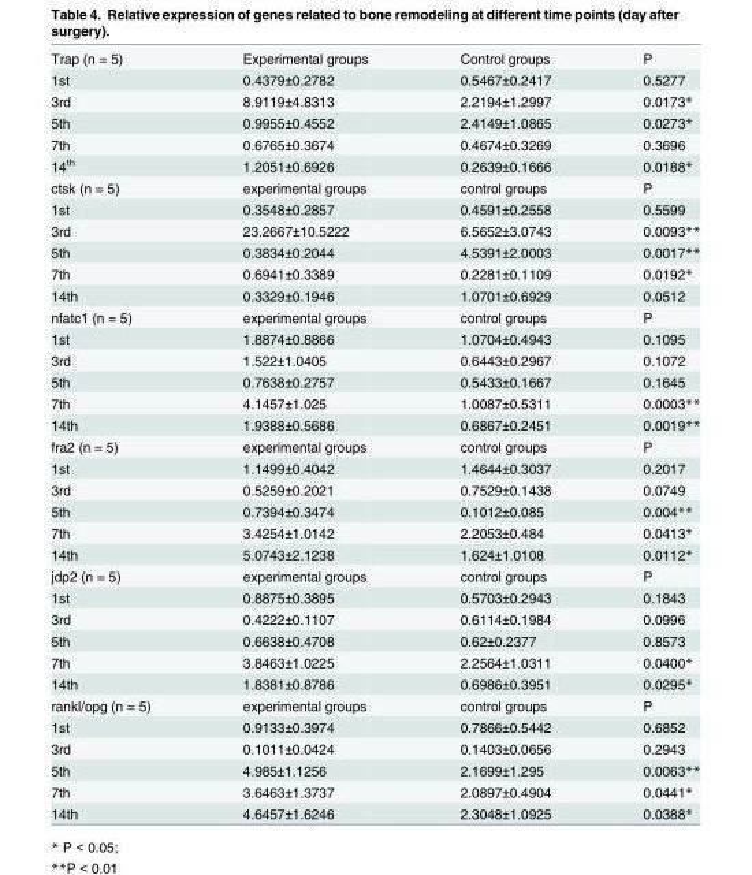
<table><tbody><tr><td>Trap (n = 5)</td><td>Experimental groups</td><td>Control groups</td><td>P</td></tr><tr><td>1st</td><td>0.4379±0.2782</td><td>0.5467±0.2417</td><td>0.5277</td></tr><tr><td>3rd</td><td>8.9119±4.8313</td><td>2.2194±1.2997</td><td>0.0173*</td></tr><tr><td>5th</td><td>0.9955±0.4552</td><td>2.4149±1.0865</td><td>0.0273*</td></tr><tr><td>7th</td><td>0.6765±0.3674</td><td>0.4674±0.3269</td><td>0.3696</td></tr><tr><td>14<sup>th</sup></td><td>1.2051±0.6926</td><td>0.2639±0.1666</td><td>0.0188*</td></tr><tr><td>ctsk (n = 5)</td><td>experimental groups</td><td>control groups</td><td>P</td></tr><tr><td>1st</td><td>0.3548±0.2857</td><td>0.4591±0.2558</td><td>0.5599</td></tr><tr><td>3rd</td><td>23.2667±10.5222</td><td>6.5652±3.0743</td><td>0.0093**</td></tr><tr><td>5th</td><td>0.3834±0.2044</td><td>4.5391±2.0003</td><td>0.0017**</td></tr><tr><td>7th</td><td>0.6941±0.3389</td><td>0.2281±0.1109</td><td>0.0192*</td></tr><tr><td>14th</td><td>0.3329±0.1946</td><td>1.0701±0.6929</td><td>0.0512</td></tr><tr><td>nfatc1 (n = 5)</td><td>experimental groups</td><td>control groups</td><td>P</td></tr><tr><td>1st</td><td>1.8874±0.8866</td><td>1.0704±0.4943</td><td>0.1095</td></tr><tr><td>3rd</td><td>1.522±1.0405</td><td>0.6443±0.2967</td><td>0.1072</td></tr><tr><td>5th</td><td>0.7638±0.2757</td><td>0.5433±0.1667</td><td>0.1645</td></tr><tr><td>7th</td><td>4.1457±1.025</td><td>1.0087±0.5311</td><td>0.0003**</td></tr><tr><td>14th</td><td>1.9388±0.5686</td><td>0.6867±0.2451</td><td>0.0019**</td></tr><tr><td>fra2 (n = 5)</td><td>experimental groups</td><td>control groups</td><td>P</td></tr><tr><td>1st</td><td>1.1499±0.4042</td><td>1.4644±0.3037</td><td>0.2017</td></tr><tr><td>3rd</td><td>0.5259±0.2021</td><td>0.7529±0.1438</td><td>0.0749</td></tr><tr><td>5th</td><td>0.7394±0.3474</td><td>0.1012±0.085</td><td>0.004**</td></tr><tr><td>7th</td><td>3.4254±1.0142</td><td>2.2053±0.484</td><td>0.0413*</td></tr><tr><td>14th</td><td>5.0743±2.1238</td><td>1.624±1.0108</td><td>0.0112*</td></tr><tr><td>jdp2 (n = 5)</td><td>experimental groups</td><td>control groups</td><td>P</td></tr><tr><td>1st</td><td>0.8875±0.3895</td><td>0.5703±0.2943</td><td>0.1843</td></tr><tr><td>3rd</td><td>0.4222±0.1107</td><td>0.6114±0.1984</td><td>0.0996</td></tr><tr><td>5th</td><td>0.6638±0.4708</td><td>0.62±0.2377</td><td>0.8573</td></tr><tr><td>7th</td><td>3.8463±1.0225</td><td>2.2564±1.0311</td><td>0.0400*</td></tr><tr><td>14th</td><td>1.8381±0.8786</td><td>0.6986±0.3951</td><td>0.0295*</td></tr><tr><td>rankl/opg (n = 5)</td><td>experimental groups</td><td>control groups</td><td>P</td></tr><tr><td>1st</td><td>0.9133±0.3974</td><td>0.7866±0.5442</td><td>0.6852</td></tr><tr><td>3rd</td><td>0.1011±0.0424</td><td>0.1403±0.0656</td><td>0.2943</td></tr><tr><td>5th</td><td>4.985±1.1256</td><td>2.1699±1.295</td><td>0.0063**</td></tr><tr><td>7th</td><td>3.6463±1.3737</td><td>2.0897±0.4904</td><td>0.0441*</td></tr><tr><td>14th</td><td>4.6457±1.6246</td><td>2.3048±1.0925</td><td>0.0388*</td></tr></tbody></table>